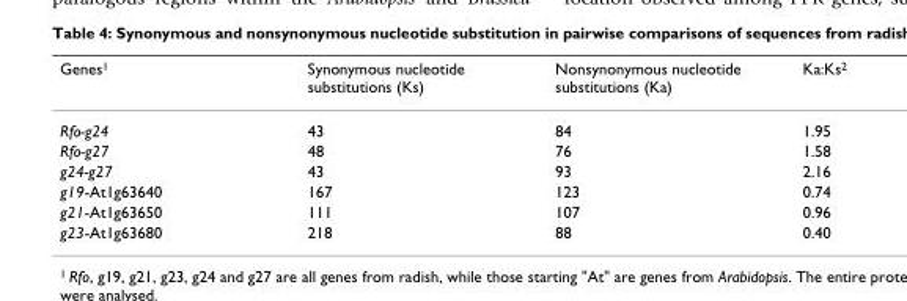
<table><thead><tr><td>Genes1</td><td>Synonymous nucleotide substitutions (Ks)</td><td>Nonsynonymous nucleotide substitutions (Ka)</td><td>Ka:Ks2</td></tr></thead><tbody><tr><td>Rfo-g24</td><td>43</td><td>84</td><td>1.95</td></tr><tr><td>Rfo-g27</td><td>48</td><td>76</td><td>1.58</td></tr><tr><td>g24-g27</td><td>43</td><td>93</td><td>2.16</td></tr><tr><td>g19-At1g63640</td><td>167</td><td>123</td><td>0.74</td></tr><tr><td>g21-At1g63650</td><td>111</td><td>107</td><td>0.96</td></tr><tr><td>g23-At1g63680</td><td>218</td><td>88</td><td>0.40</td></tr></tbody></table>